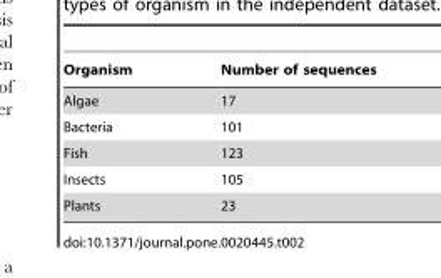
<table><thead><tr><td>Organism</td><td>Number of sequences</td></tr></thead><tbody><tr><td>Algae</td><td>17</td></tr><tr><td>Bacteria</td><td>101</td></tr><tr><td>Fish</td><td>123</td></tr><tr><td>Insects</td><td>105</td></tr><tr><td>Plants</td><td>23</td></tr></tbody></table>